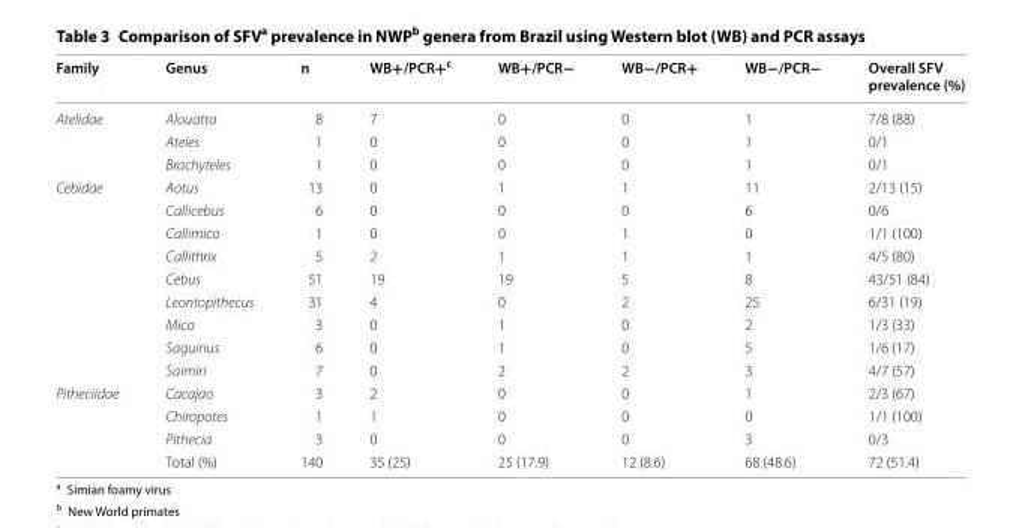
<table><thead><tr><td>Family</td><td>Genus</td><td>n</td><td>WB+/PCR+<sup>c</sup></td><td>WB+/PCR−</td><td>WB−/PCR+</td><td>WB−/PCR−</td><td>Overall SFV prevalence (%)</td></tr></thead><tbody><tr><td rowspan="3">Atelidae</td><td>Alouatta</td><td>8</td><td>7</td><td>0</td><td>0</td><td>1</td><td>7/8 (88)</td></tr><tr><td>Ateles</td><td>1</td><td>0</td><td>0</td><td>0</td><td>1</td><td>0/1</td></tr><tr><td>Brachyteles</td><td>1</td><td>0</td><td>0</td><td>0</td><td>1</td><td>0/1</td></tr><tr><td rowspan="9">Cebidae</td><td>Aotus</td><td>13</td><td>0</td><td>1</td><td>1</td><td>11</td><td>2/13 (15)</td></tr><tr><td>Callicebus</td><td>6</td><td>0</td><td>0</td><td>0</td><td>6</td><td>0/6</td></tr><tr><td>Callimico</td><td>1</td><td>0</td><td>0</td><td>1</td><td>0</td><td>1/1 (100)</td></tr><tr><td>Callithrix</td><td>5</td><td>2</td><td>1</td><td>1</td><td>1</td><td>4/5 (80)</td></tr><tr><td>Cebus</td><td>51</td><td>19</td><td>19</td><td>5</td><td>8</td><td>43/51 (84)</td></tr><tr><td>Leontopithecus</td><td>31</td><td>4</td><td>0</td><td>2</td><td>25</td><td>6/31 (19)</td></tr><tr><td>Mico</td><td>3</td><td>0</td><td>1</td><td>0</td><td>2</td><td>1/3 (33)</td></tr><tr><td>Saguinus</td><td>6</td><td>0</td><td>1</td><td>0</td><td>5</td><td>1/6 (17)</td></tr><tr><td>Saimiri</td><td>7</td><td>0</td><td>2</td><td>2</td><td>3</td><td>4/7 (57)</td></tr><tr><td rowspan="4">Pitheciidae</td><td>Cacajao</td><td>3</td><td>2</td><td>0</td><td>0</td><td>1</td><td>2/3 (67)</td></tr><tr><td>Chiropotes</td><td>1</td><td>1</td><td>0</td><td>0</td><td>0</td><td>1/1 (100)</td></tr><tr><td>Pithecia</td><td>3</td><td>0</td><td>0</td><td>0</td><td>3</td><td>0/3</td></tr><tr><td>Total (%)</td><td>140</td><td>35 (25)</td><td>25 (17.9)</td><td>12 (8.6)</td><td>68 (48.6)</td><td>72 (51.4)</td></tr></tbody></table>